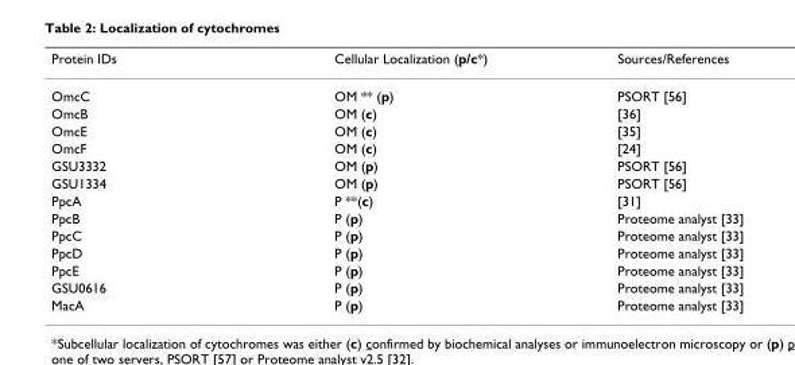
<table><thead><tr><td>Protein IDs</td><td>Cellular Localization (p/c*)</td><td>Sources/References</td></tr></thead><tbody><tr><td>OmcC</td><td>OM ** (p)</td><td>PSORT [56]</td></tr><tr><td>OmcB</td><td>OM (c)</td><td>[36]</td></tr><tr><td>OmcE</td><td>OM (c)</td><td>[35]</td></tr><tr><td>OmcF</td><td>OM (c)</td><td>[24]</td></tr><tr><td>GSU3332</td><td>OM (p)</td><td>PSORT [56]</td></tr><tr><td>GSU1334</td><td>OM (p)</td><td>PSORT [56]</td></tr><tr><td>PpcA</td><td>P **(c)</td><td>[31]</td></tr><tr><td>PpcB</td><td>P (p)</td><td>Proteome analyst [33]</td></tr><tr><td>PpcC</td><td>P (p)</td><td>Proteome analyst [33]</td></tr><tr><td>PpcD</td><td>P (p)</td><td>Proteome analyst [33]</td></tr><tr><td>PpcE</td><td>P (p)</td><td>Proteome analyst [33]</td></tr><tr><td>GSU0616</td><td>P (p)</td><td>Proteome analyst [33]</td></tr><tr><td>MacA</td><td>P (p)</td><td>Proteome analyst [33]</td></tr></tbody></table>